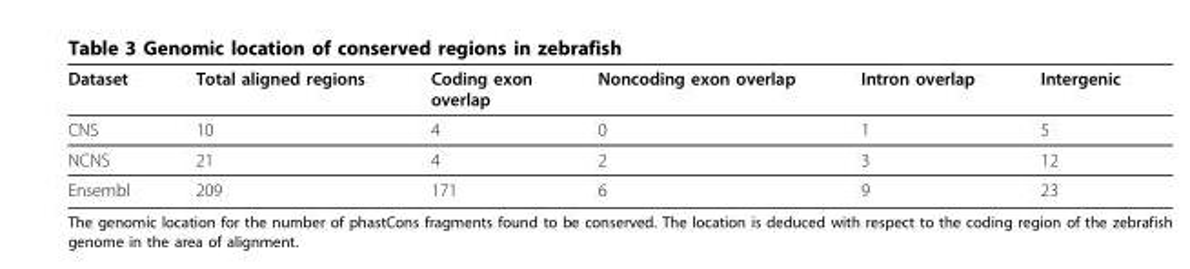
<table><thead><tr><td>Dataset</td><td>Total aligned regions</td><td>Coding exon overlap</td><td>Noncoding exon overlap</td><td>Intron overlap</td><td>Intergenic</td></tr></thead><tbody><tr><td>CNS</td><td>10</td><td>4</td><td>0</td><td>1</td><td>5</td></tr><tr><td>NCNS</td><td>21</td><td>4</td><td>2</td><td>3</td><td>12</td></tr><tr><td>Ensembl</td><td>209</td><td>171</td><td>6</td><td>9</td><td>23</td></tr></tbody></table>